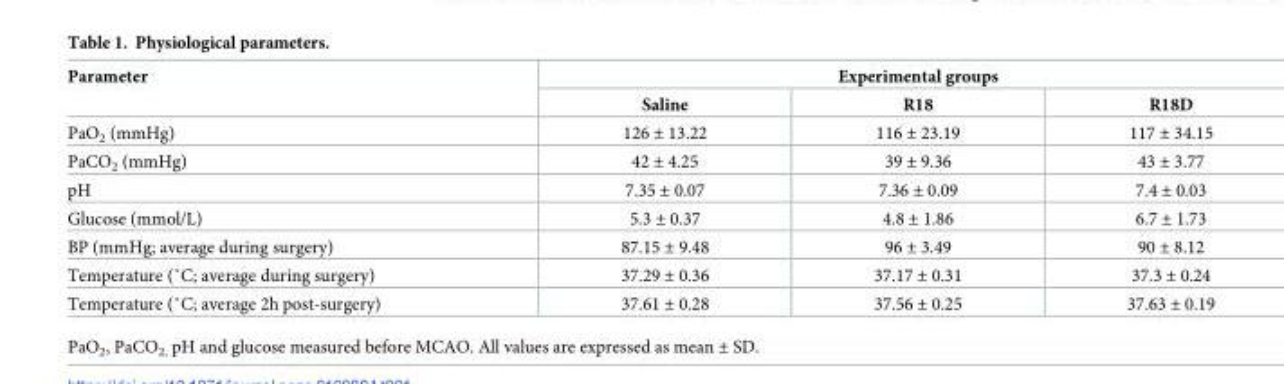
<table><thead><tr><td rowspan="2">Parameter</td><td colspan="3">Experimental groups</td></tr><tr><td>Saline</td><td>R18</td><td>R18D</td></tr></thead><tbody><tr><td>PaO<sub>2</sub> (mmHg)</td><td>126 ± 13.22</td><td>116 ± 23.19</td><td>117 ± 34.15</td></tr><tr><td>PaCO<sub>2</sub> (mmHg)</td><td>42 ± 4.25</td><td>39 ± 9.36</td><td>43 ± 3.77</td></tr><tr><td>pH</td><td>7.35 ± 0.07</td><td>7.36 ± 0.09</td><td>7.4 ± 0.03</td></tr><tr><td>Glucose (mmol/L)</td><td>5.3 ± 0.37</td><td>4.8 ± 1.86</td><td>6.7 ± 1.73</td></tr><tr><td>BP (mmHg; average during surgery)</td><td>87.15 ± 9.48</td><td>96 ± 3.49</td><td>90 ± 8.12</td></tr><tr><td>Temperature (˚C; average during surgery)</td><td>37.29 ± 0.36</td><td>37.17 ± 0.31</td><td>37.3 ± 0.24</td></tr><tr><td>Temperature (˚C; average 2h post-surgery)</td><td>37.61 ± 0.28</td><td>37.56 ± 0.25</td><td>37.63 ± 0.19</td></tr></tbody></table>